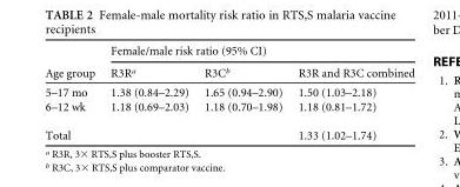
<table><thead><tr><td rowspan="2">Age group</td><td colspan="3">Female/male risk ratio (95% CI)</td></tr><tr><td>R3R<sup>a</sup></td><td>R3C<sup>b</sup></td><td>R3R and R3C combined</td></tr></thead><tbody><tr><td>5–17 mo</td><td>1.38 (0.84–2.29)</td><td>1.65 (0.94–2.90)</td><td>1.50 (1.03–2.18)</td></tr><tr><td>6–12 wk</td><td>1.18 (0.69–2.03)</td><td>1.18 (0.70–1.98)</td><td>1.18 (0.81–1.72)</td></tr><tr><td>Total</td><td></td><td></td><td>1.33 (1.02–1.74)</td></tr></tbody></table>